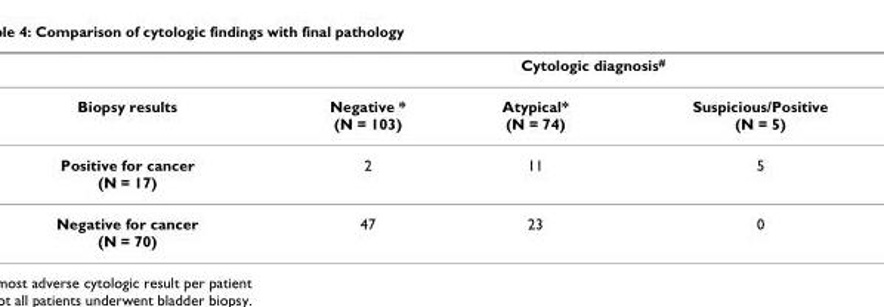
<table><thead><tr><td rowspan="2">Biopsy results</td><td colspan="3">Cytologic diagnosis<sup>#</sup></td></tr><tr><td>Negative * (N = 103)</td><td>Atypical* (N = 74)</td><td>Suspicious/Positive (N = 5)</td></tr></thead><tbody><tr><td>Positive for cancer (N = 17)</td><td>2</td><td>11</td><td>5</td></tr><tr><td>Negative for cancer (N = 70)</td><td>47</td><td>23</td><td>0</td></tr></tbody></table>